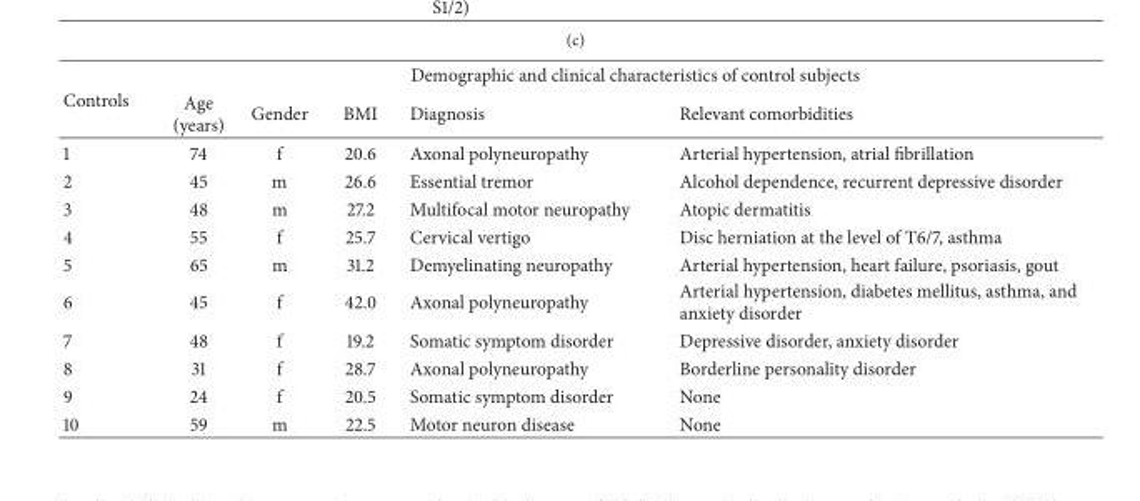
<table><thead><tr><td rowspan="2">Controls</td><td colspan="5">Demographic and clinical characteristics of control subjects</td></tr><tr><td>Age (years)</td><td>Gender</td><td>BMI</td><td>Diagnosis</td><td>Relevant comorbidities</td></tr></thead><tbody><tr><td>1</td><td>74</td><td>f</td><td>20.6</td><td>Axonal polyneuropathy</td><td>Arterial hypertension, atrial fibrillation</td></tr><tr><td>2</td><td>45</td><td>m</td><td>26.6</td><td>Essential tremor</td><td>Alcohol dependence, recurrent depressive disorder</td></tr><tr><td>3</td><td>48</td><td>m</td><td>27.2</td><td>Multifocal motor neuropathy</td><td>Atopic dermatitis</td></tr><tr><td>4</td><td>55</td><td>f</td><td>25.7</td><td>Cervical vertigo</td><td>Disc herniation at the level of T6/7, asthma</td></tr><tr><td>5</td><td>65</td><td>m</td><td>31.2</td><td>Demyelinating neuropathy</td><td>Arterial hypertension, heart failure, psoriasis, gout</td></tr><tr><td>6</td><td>45</td><td>f</td><td>42.0</td><td>Axonal polyneuropathy</td><td>Arterial hypertension, diabetes mellitus, asthma, and anxiety disorder</td></tr><tr><td>7</td><td>48</td><td>f</td><td>19.2</td><td>Somatic symptom disorder</td><td>Depressive disorder, anxiety disorder</td></tr><tr><td>8</td><td>31</td><td>f</td><td>28.7</td><td>Axonal polyneuropathy</td><td>Borderline personality disorder</td></tr><tr><td>9</td><td>24</td><td>f</td><td>20.5</td><td>Somatic symptom disorder</td><td>None</td></tr><tr><td>10</td><td>59</td><td>m</td><td>22.5</td><td>Motor neuron disease</td><td>None</td></tr></tbody></table>